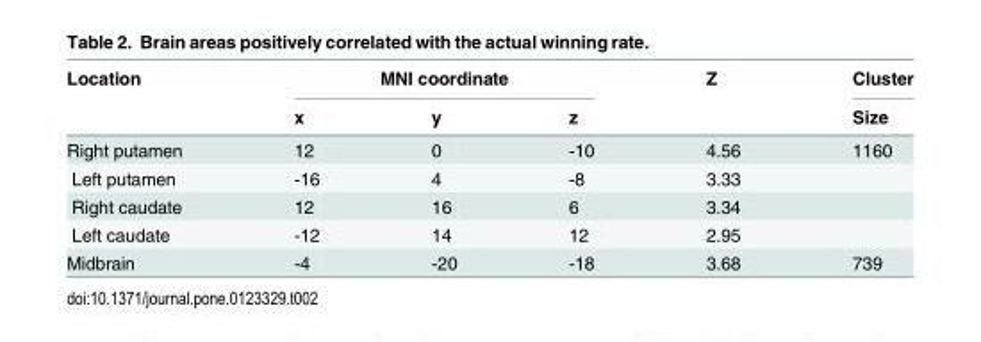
<table><thead><tr><td rowspan="2">Location</td><td colspan="3">MNI coordinate</td><td rowspan="2">Z</td><td rowspan="2">Cluster Size</td></tr><tr><td>x</td><td>y</td><td>z</td></tr></thead><tbody><tr><td>Right putamen</td><td>12</td><td>0</td><td>-10</td><td>4.56</td><td>1160</td></tr><tr><td>Left putamen</td><td>-16</td><td>4</td><td>-8</td><td>3.33</td><td></td></tr><tr><td>Right caudate</td><td>12</td><td>16</td><td>6</td><td>3.34</td><td></td></tr><tr><td>Left caudate</td><td>-12</td><td>14</td><td>12</td><td>2.95</td><td></td></tr><tr><td>Midbrain</td><td>-4</td><td>-20</td><td>-18</td><td>3.68</td><td>739</td></tr></tbody></table>